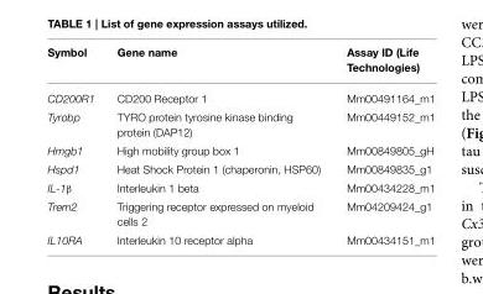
<table><thead><tr><td>Symbol</td><td>Gene name</td><td>Assay ID (Life Technologies)</td></tr></thead><tbody><tr><td>CD200R1</td><td>CD200 Receptor 1</td><td>Mm00491164_m1</td></tr><tr><td>Tyrobp</td><td>TYRO protein tyrosine kinase binding protein (DAP12)</td><td>Mm00449152_m1</td></tr><tr><td>Hmgb1</td><td>High mobility group box 1</td><td>Mm00849805_gH</td></tr><tr><td>Hspd1</td><td>Heat Shock Protein 1 (chaperonin, HSP60)</td><td>Mm00849835_g1</td></tr><tr><td>IL-1β</td><td>Interleukin 1 beta</td><td>Mm00434228_m1</td></tr><tr><td>Trem2</td><td>Triggering receptor expressed on myeloid cells 2</td><td>Mm04209424_g1</td></tr><tr><td>IL10RA</td><td>Interleukin 10 receptor alpha</td><td>Mm00434151_m1</td></tr></tbody></table>